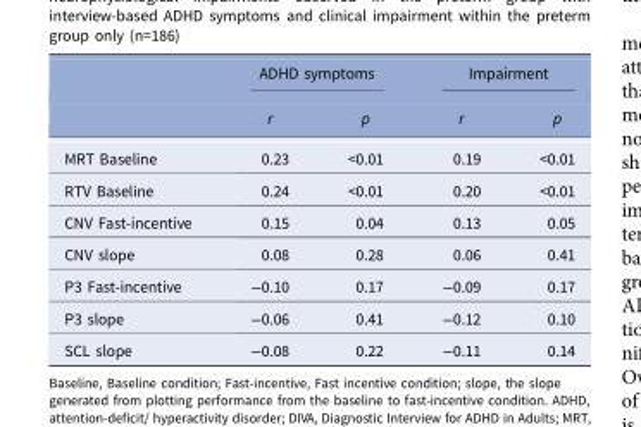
<table><thead><tr><td rowspan="2"></td><td colspan="2">ADHD symptoms</td><td colspan="2">Impairment</td></tr><tr><td>r</td><td>p</td><td>r</td><td>p</td></tr></thead><tbody><tr><td>MRT Baseline</td><td>0.23</td><td>&lt;0.01</td><td>0.19</td><td>&lt;0.01</td></tr><tr><td>RTV Baseline</td><td>0.24</td><td>&lt;0.01</td><td>0.20</td><td>&lt;0.01</td></tr><tr><td>CNV Fast-incentive</td><td>0.15</td><td>0.04</td><td>0.13</td><td>0.05</td></tr><tr><td>CNV slope</td><td>0.08</td><td>0.28</td><td>0.06</td><td>0.41</td></tr><tr><td>P3 Fast-incentive</td><td>−0.10</td><td>0.17</td><td>−0.09</td><td>0.17</td></tr><tr><td>P3 slope</td><td>−0.06</td><td>0.41</td><td>−0.12</td><td>0.10</td></tr><tr><td>SCL slope</td><td>−0.08</td><td>0.22</td><td>−0.11</td><td>0.14</td></tr></tbody></table>